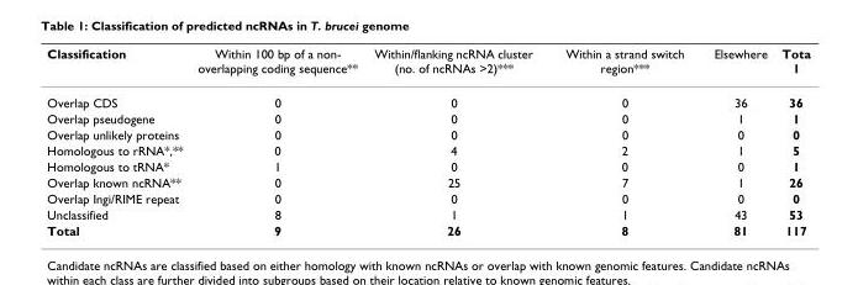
<table><thead><tr><td>Classification</td><td>Within 100 bp of a non- overlapping coding sequence**</td><td>Within/flanking ncRNA cluster (no. of ncRNAs &gt;2)***</td><td>Within a strand switch region***</td><td>Elsewhere</td><td>Tota l</td></tr></thead><tbody><tr><td>Overlap CDS</td><td>0</td><td>0</td><td>0</td><td>36</td><td>36</td></tr><tr><td>Overlap pseudogene</td><td>0</td><td>0</td><td>0</td><td>1</td><td>1</td></tr><tr><td>Overlap unlikely proteins</td><td>0</td><td>0</td><td>0</td><td>0</td><td>0</td></tr><tr><td>Homologous to rRNA*,**</td><td>0</td><td>4</td><td>2</td><td>1</td><td>5</td></tr><tr><td>Homologous to tRNA*</td><td>1</td><td>0</td><td>0</td><td>0</td><td>1</td></tr><tr><td>Overlap known ncRNA**</td><td>0</td><td>25</td><td>7</td><td>1</td><td>26</td></tr><tr><td>Overlap Ingi/RIME repeat</td><td>0</td><td>0</td><td>0</td><td>0</td><td>0</td></tr><tr><td>Unclassified</td><td>8</td><td>1</td><td>1</td><td>43</td><td>53</td></tr><tr><td>Total</td><td>9</td><td>26</td><td>8</td><td>81</td><td>117</td></tr></tbody></table>